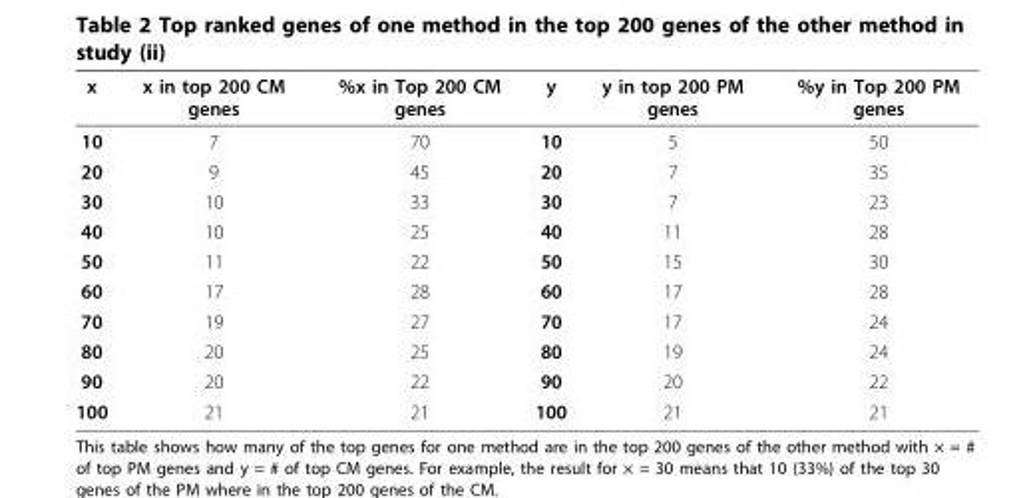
<table><thead><tr><td>x</td><td>x in top 200 CM genes</td><td>%x in Top 200 CM genes</td><td>y</td><td>y in top 200 PM genes</td><td>%y in Top 200 PM genes</td></tr></thead><tbody><tr><td>10</td><td>7</td><td>70</td><td>10</td><td>5</td><td>50</td></tr><tr><td>20</td><td>9</td><td>45</td><td>20</td><td>7</td><td>35</td></tr><tr><td>30</td><td>10</td><td>33</td><td>30</td><td>7</td><td>23</td></tr><tr><td>40</td><td>10</td><td>25</td><td>40</td><td>11</td><td>28</td></tr><tr><td>50</td><td>11</td><td>22</td><td>50</td><td>15</td><td>30</td></tr><tr><td>60</td><td>17</td><td>28</td><td>60</td><td>17</td><td>28</td></tr><tr><td>70</td><td>19</td><td>27</td><td>70</td><td>17</td><td>24</td></tr><tr><td>80</td><td>20</td><td>25</td><td>80</td><td>19</td><td>24</td></tr><tr><td>90</td><td>20</td><td>22</td><td>90</td><td>20</td><td>22</td></tr><tr><td>100</td><td>21</td><td>21</td><td>100</td><td>21</td><td>21</td></tr></tbody></table>